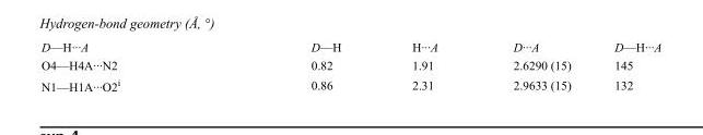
<table><tbody><tr><td>D—H···A</td><td>D—H</td><td>H···A</td><td>D···A</td><td>D—H···A</td></tr><tr><td>O4—H4A···N2</td><td>0.82</td><td>1.91</td><td>2.6290 (15)</td><td>145</td></tr><tr><td>N1—H1A···O2<sup>i</sup></td><td>0.86</td><td>2.31</td><td>2.9633 (15)</td><td>132</td></tr></tbody></table>